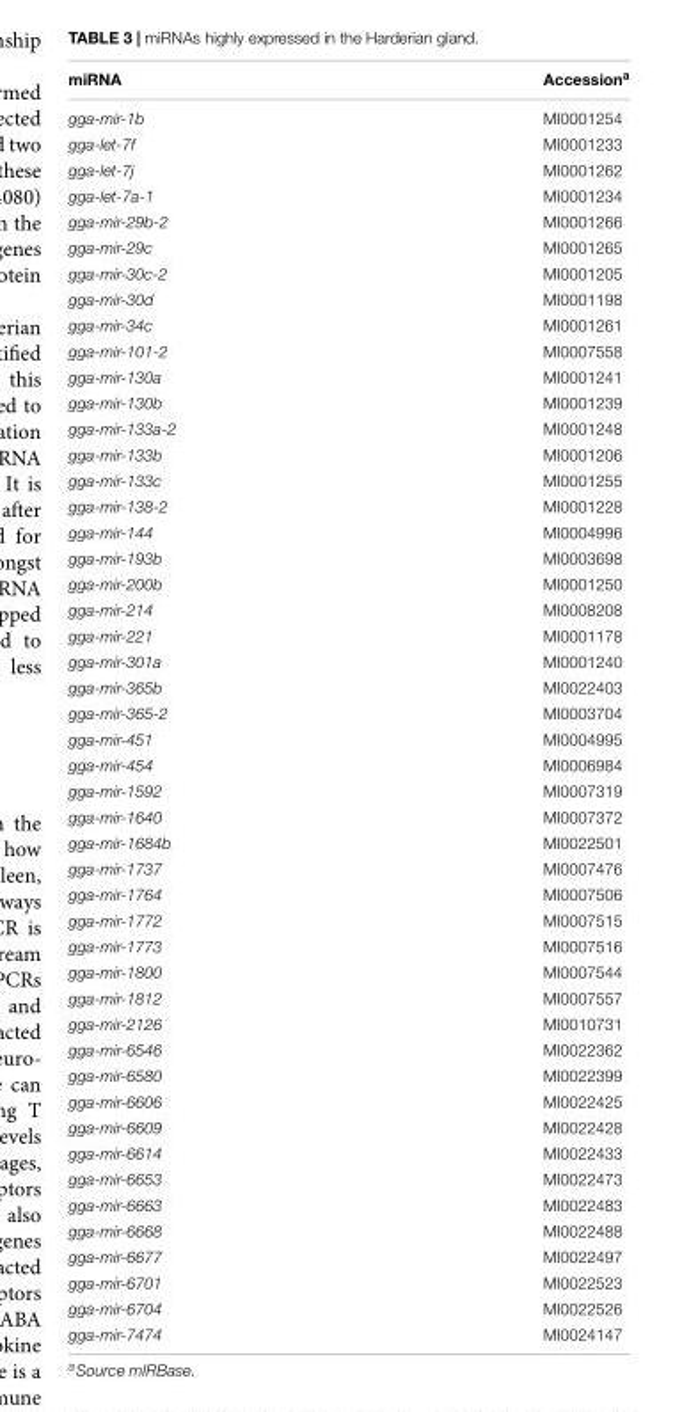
<table><thead><tr><td>miRNA</td><td>Accession<sup>a</sup></td></tr></thead><tbody><tr><td>gga-mir-1b</td><td>MI0001254</td></tr><tr><td>gga-let-7f</td><td>MI0001233</td></tr><tr><td>gga-let-7j</td><td>MI0001262</td></tr><tr><td>gga-let-7a-1</td><td>MI0001234</td></tr><tr><td>gga-mir-29b-2</td><td>MI0001266</td></tr><tr><td>gga-mir-29c</td><td>MI0001265</td></tr><tr><td>gga-mir-30c-2</td><td>MI0001205</td></tr><tr><td>gga-mir-30d</td><td>MI0001198</td></tr><tr><td>gga-mir-34c</td><td>MI0001261</td></tr><tr><td>gga-mir-101-2</td><td>MI0007558</td></tr><tr><td>gga-mir-130a</td><td>MI0001241</td></tr><tr><td>gga-mir-130b</td><td>MI0001239</td></tr><tr><td>gga-mir-133a-2</td><td>MI0001248</td></tr><tr><td>gga-mir-133b</td><td>MI0001206</td></tr><tr><td>gga-mir-133c</td><td>MI0001255</td></tr><tr><td>gga-mir-138-2</td><td>MI0001228</td></tr><tr><td>gga-mir-144</td><td>MI0004996</td></tr><tr><td>gga-mir-193b</td><td>MI0003698</td></tr><tr><td>gga-mir-200b</td><td>MI0001250</td></tr><tr><td>gga-mir-214</td><td>MI0008208</td></tr><tr><td>gga-mir-221</td><td>MI0001178</td></tr><tr><td>gga-mir-301a</td><td>MI0001240</td></tr><tr><td>gga-mir-365b</td><td>MI0022403</td></tr><tr><td>gga-mir-365-2</td><td>MI0003704</td></tr><tr><td>gga-mir-451</td><td>MI0004995</td></tr><tr><td>gga-mir-454</td><td>MI0006984</td></tr><tr><td>gga-mir-1592</td><td>MI0007319</td></tr><tr><td>gga-mir-1640</td><td>MI0007372</td></tr><tr><td>gga-mir-1684b</td><td>MI0022501</td></tr><tr><td>gga-mir-1737</td><td>MI0007476</td></tr><tr><td>gga-mir-1764</td><td>MI0007506</td></tr><tr><td>gga-mir-1772</td><td>MI0007515</td></tr><tr><td>gga-mir-1773</td><td>MI0007516</td></tr><tr><td>gga-mir-1800</td><td>MI0007544</td></tr><tr><td>gga-mir-1812</td><td>MI0007557</td></tr><tr><td>gga-mir-2126</td><td>MI0010731</td></tr><tr><td>gga-mir-6546</td><td>MI0022362</td></tr><tr><td>gga-mir-6580</td><td>MI0022399</td></tr><tr><td>gga-mir-6606</td><td>MI0022425</td></tr><tr><td>gga-mir-6609</td><td>MI0022428</td></tr><tr><td>gga-mir-6614</td><td>MI0022433</td></tr><tr><td>gga-mir-6653</td><td>MI0022473</td></tr><tr><td>gga-mir-6663</td><td>MI0022483</td></tr><tr><td>gga-mir-6668</td><td>MI0022488</td></tr><tr><td>gga-mir-6677</td><td>MI0022497</td></tr><tr><td>gga-mir-6701</td><td>MI0022523</td></tr><tr><td>gga-mir-6704</td><td>MI0022526</td></tr><tr><td>gga-mir-7474</td><td>MI0024147</td></tr></tbody></table>